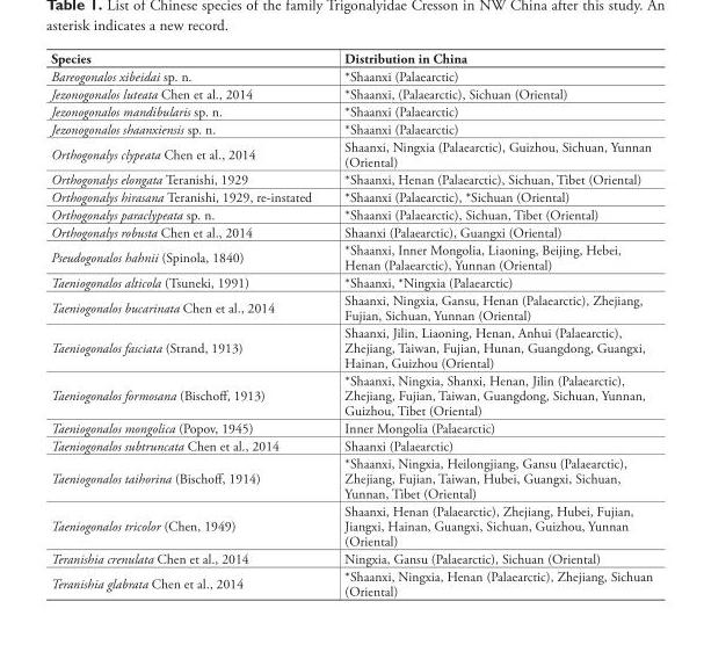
<table><thead><tr><td>Species</td><td>Distribution in China</td></tr></thead><tbody><tr><td>Bareogonalos xibeidai sp. n.</td><td>*Shaanxi (Palaearctic)</td></tr><tr><td>Jezonogonalos luteata Chen et al., 2014</td><td>*Shaanxi, (Palaearctic), Sichuan (Oriental)</td></tr><tr><td>Jezonogonalos mandibularis sp. n.</td><td>*Shaanxi (Palaearctic)</td></tr><tr><td>Jezonogonalos shaanxiensis sp. n.</td><td>*Shaanxi (Palaearctic)</td></tr><tr><td>Orthogonalys clypeata Chen et al., 2014</td><td>Shaanxi, Ningxia (Palaearctic), Guizhou, Sichuan, Yunnan (Oriental)</td></tr><tr><td>Orthogonalys elongata Teranishi, 1929</td><td>*Shaanxi, Henan (Palaearctic), Sichuan, Tibet (Oriental)</td></tr><tr><td>Orthogonalys hirasana Teranishi, 1929, re-instated</td><td>*Shaanxi (Palaearctic), *Sichuan (Oriental)</td></tr><tr><td>Orthogonalys paraclypeata sp. n.</td><td>*Shaanxi (Palaearctic), Sichuan, Tibet (Oriental)</td></tr><tr><td>Orthogonalys robusta Chen et al., 2014</td><td>Shaanxi (Palaearctic), Guangxi (Oriental)</td></tr><tr><td>Pseudogonalos hahnii (Spinola, 1840)</td><td>*Shaanxi, Inner Mongolia, Liaoning, Beijing, Hebei, Henan (Palaearctic), Yunnan (Oriental)</td></tr><tr><td>Taeniogonalos alticola (Tsuneki, 1991)</td><td>*Shaanxi, *Ningxia (Palaearctic)</td></tr><tr><td>Taeniogonalos bucarinata Chen et al., 2014</td><td>Shaanxi, Ningxia, Gansu, Henan (Palaearctic), Zhejiang, Fujian, Sichuan, Yunnan (Oriental)</td></tr><tr><td>Taeniogonalos fasciata (Strand, 1913)</td><td>Shaanxi, Jilin, Liaoning, Henan, Anhui (Palaearctic), Zhejiang, Taiwan, Fujian, Hunan, Guangdong, Guangxi, Hainan, Guizhou (Oriental)</td></tr><tr><td>Taeniogonalos formosana (Bischoff, 1913)</td><td>*Shaanxi, Ningxia, Shanxi, Henan, Jilin (Palaearctic), Zhejiang, Fujian, Taiwan, Guangdong, Sichuan, Yunnan, Guizhou, Tibet (Oriental)</td></tr><tr><td>Taeniogonalos mongolica (Popov, 1945)</td><td>Inner Mongolia (Palaearctic)</td></tr><tr><td>Taeniogonalos subtruncata Chen et al., 2014</td><td>Shaanxi (Palaearctic)</td></tr><tr><td>Taeniogonalos taihorina (Bischoff, 1914)</td><td>*Shaanxi, Ningxia, Heilongjiang, Gansu (Palaearctic), Zhejiang, Fujian, Taiwan, Hubei, Guangxi, Sichuan, Yunnan, Tibet (Oriental)</td></tr><tr><td>Taeniogonalos tricolor (Chen, 1949)</td><td>Shaanxi, Henan (Palaearctic), Zhejiang, Hubei, Fujian, Jiangxi, Hainan, Guangxi, Sichuan, Guizhou, Yunnan (Oriental)</td></tr><tr><td>Teranishia crenulata Chen et al., 2014</td><td>Ningxia, Gansu (Palaearctic), Sichuan (Oriental)</td></tr><tr><td>Teranishia glabrata Chen et al., 2014</td><td>*Shaanxi, Ningxia, Henan (Palaearctic), Zhejiang, Sichuan (Oriental)</td></tr></tbody></table>